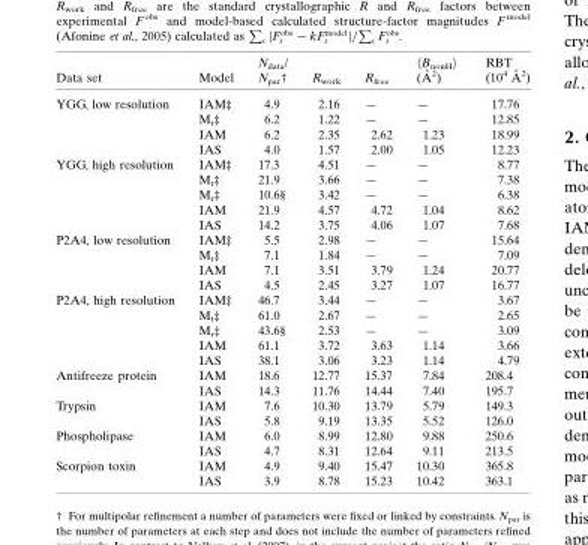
<table><thead><tr><td>Data set</td><td>Model</td><td>N<sub>data</sub>/ N<sub>par</sub>†</td><td>R<sub>work</sub></td><td>R<sub>free</sub></td><td>hBnonHi (A˚ 2)</td><td>RBT (104 A˚ 2)</td></tr></thead><tbody><tr><td rowspan="4">YGG, low resolution</td><td>IAM‡</td><td>4.9</td><td>2.16</td><td>—</td><td>—</td><td>17.76</td></tr><tr><td>M<sub>t</sub>‡</td><td>6.2</td><td>1.22</td><td>—</td><td>—</td><td>12.85</td></tr><tr><td>IAM</td><td>6.2</td><td>2.35</td><td>2.62</td><td>1.23</td><td>18.99</td></tr><tr><td>IAS</td><td>4.0</td><td>1.57</td><td>2.00</td><td>1.05</td><td>12.23</td></tr><tr><td rowspan="5">YGG, high resolution</td><td>IAM‡</td><td>17.3</td><td>4.51</td><td>—</td><td>—</td><td>8.77</td></tr><tr><td>M<sub>t</sub>‡</td><td>21.9</td><td>3.66</td><td>—</td><td>—</td><td>7.38</td></tr><tr><td>M<sub>r</sub>‡</td><td>10.6§</td><td>3.42</td><td>—</td><td>—</td><td>6.38</td></tr><tr><td>IAM</td><td>21.9</td><td>4.57</td><td>4.72</td><td>1.04</td><td>8.62</td></tr><tr><td>IAS</td><td>14.2</td><td>3.75</td><td>4.06</td><td>1.07</td><td>7.68</td></tr><tr><td rowspan="4">P2A4, low resolution</td><td>IAM‡</td><td>5.5</td><td>2.98</td><td>—</td><td>—</td><td>15.64</td></tr><tr><td>M<sub>t</sub>‡</td><td>7.1</td><td>1.84</td><td>—</td><td>—</td><td>7.09</td></tr><tr><td>IAM</td><td>7.1</td><td>3.51</td><td>3.79</td><td>1.24</td><td>20.77</td></tr><tr><td>IAS</td><td>4.5</td><td>2.45</td><td>3.27</td><td>1.07</td><td>16.77</td></tr><tr><td rowspan="5">P2A4, high resolution</td><td>IAM‡</td><td>46.7</td><td>3.44</td><td>—</td><td>—</td><td>3.67</td></tr><tr><td>M<sub>t</sub>‡</td><td>61.0</td><td>2.67</td><td>—</td><td>—</td><td>2.65</td></tr><tr><td>M<sub>r</sub>‡</td><td>43.6§</td><td>2.53</td><td>—</td><td>—</td><td>3.09</td></tr><tr><td>IAM</td><td>61.1</td><td>3.72</td><td>3.63</td><td>1.14</td><td>3.66</td></tr><tr><td>IAS</td><td>38.1</td><td>3.06</td><td>3.23</td><td>1.14</td><td>4.79</td></tr><tr><td rowspan="2">Antifreeze protein</td><td>IAM</td><td>18.6</td><td>12.77</td><td>15.37</td><td>7.84</td><td>208.4</td></tr><tr><td>IAS</td><td>14.3</td><td>11.76</td><td>14.44</td><td>7.40</td><td>195.7</td></tr><tr><td rowspan="2">Trypsin</td><td>IAM</td><td>7.6</td><td>10.30</td><td>13.79</td><td>5.79</td><td>149.3</td></tr><tr><td>IAS</td><td>5.8</td><td>9.19</td><td>13.35</td><td>5.52</td><td>126.0</td></tr><tr><td rowspan="2">Phospholipase</td><td>IAM</td><td>6.0</td><td>8.99</td><td>12.80</td><td>9.88</td><td>250.6</td></tr><tr><td>IAS</td><td>4.7</td><td>8.31</td><td>12.64</td><td>9.11</td><td>213.5</td></tr><tr><td rowspan="2">Scorpion toxin</td><td>IAM</td><td>4.9</td><td>9.40</td><td>15.47</td><td>10.30</td><td>365.8</td></tr><tr><td>IAS</td><td>3.9</td><td>8.78</td><td>15.23</td><td>10.42</td><td>363.1</td></tr></tbody></table>